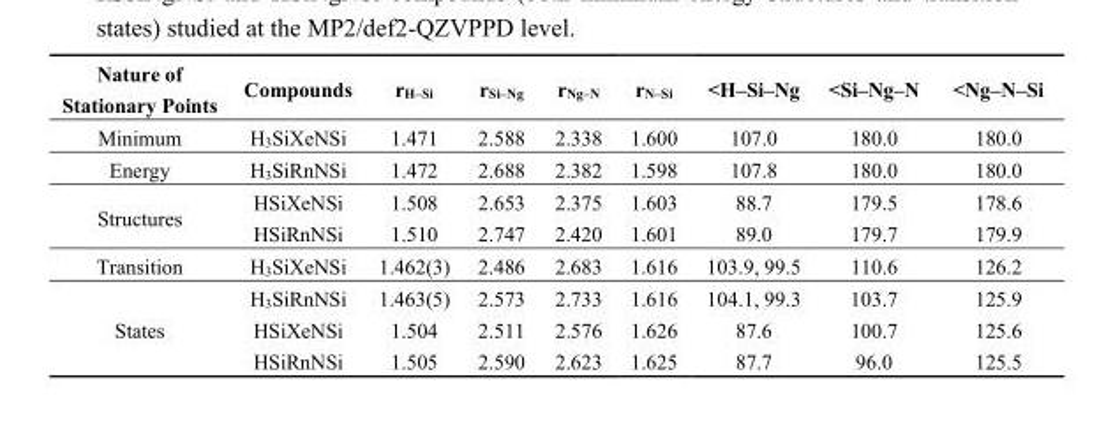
<table><thead><tr><td>Nature of Stationary Points</td><td>Compounds</td><td>r<sub>H–Si</sub></td><td>r<sub>Si–Ng</sub></td><td>r<sub>Ng–N</sub></td><td>r<sub>N–Si</sub></td><td>&lt;H–Si–Ng</td><td>&lt;Si–Ng–N</td><td>&lt;Ng–N–Si</td></tr></thead><tbody><tr><td>Minimum</td><td>H<sub>3</sub>SiXeNSi</td><td>1.471</td><td>2.588</td><td>2.338</td><td>1.600</td><td>107.0</td><td>180.0</td><td>180.0</td></tr><tr><td>Energy</td><td>H<sub>3</sub>SiRnNSi</td><td>1.472</td><td>2.688</td><td>2.382</td><td>1.598</td><td>107.8</td><td>180.0</td><td>180.0</td></tr><tr><td rowspan="2">Structures</td><td>HSiXeNSi</td><td>1.508</td><td>2.653</td><td>2.375</td><td>1.603</td><td>88.7</td><td>179.5</td><td>178.6</td></tr><tr><td>HSiRnNSi</td><td>1.510</td><td>2.747</td><td>2.420</td><td>1.601</td><td>89.0</td><td>179.7</td><td>179.9</td></tr><tr><td>Transition</td><td>H<sub>3</sub>SiXeNSi</td><td>1.462(3)</td><td>2.486</td><td>2.683</td><td>1.616</td><td>103.9, 99.5</td><td>110.6</td><td>126.2</td></tr><tr><td rowspan="3">States</td><td>H<sub>3</sub>SiRnNSi</td><td>1.463(5)</td><td>2.573</td><td>2.733</td><td>1.616</td><td>104.1, 99.3</td><td>103.7</td><td>125.9</td></tr><tr><td>HSiXeNSi</td><td>1.504</td><td>2.511</td><td>2.576</td><td>1.626</td><td>87.6</td><td>100.7</td><td>125.6</td></tr><tr><td>HSiRnNSi</td><td>1.505</td><td>2.590</td><td>2.623</td><td>1.625</td><td>87.7</td><td>96.0</td><td>125.5</td></tr></tbody></table>